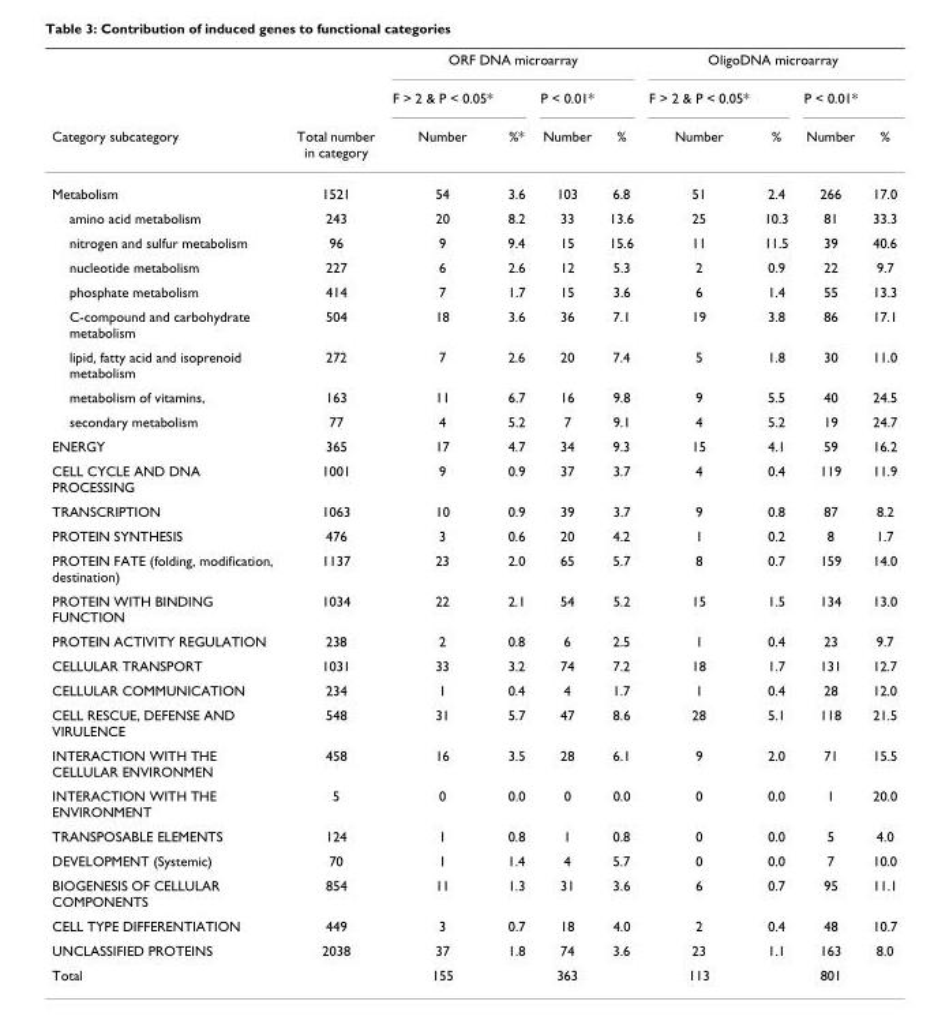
<table><thead><tr><td rowspan="3">Category subcategory</td><td rowspan="3">Total number in category</td><td colspan="4">ORF DNA microarray</td><td colspan="4">OligoDNA microarray</td></tr><tr><td rowspan="2">F &gt; 2 &amp; P &lt; 0.05* Number</td><td rowspan="2">%*</td><td rowspan="2">P &lt; 0.01* Number</td><td rowspan="2">%</td><td rowspan="2">F &gt; 2 &amp; P &lt; 0.05* Number</td><td rowspan="2">%</td><td rowspan="2">P &lt; 0.01* Number</td><td rowspan="2">%</td></tr><tr></tr></thead><tbody><tr><td>Metabolism</td><td>1521</td><td>54</td><td>3.6</td><td>103</td><td>6.8</td><td>51</td><td>2.4</td><td>266</td><td>17.0</td></tr><tr><td>amino acid metabolism</td><td>243</td><td>20</td><td>8.2</td><td>33</td><td>13.6</td><td>25</td><td>10.3</td><td>81</td><td>33.3</td></tr><tr><td>nitrogen and sulfur metabolism</td><td>96</td><td>9</td><td>9.4</td><td>15</td><td>15.6</td><td>11</td><td>11.5</td><td>39</td><td>40.6</td></tr><tr><td>nucleotide metabolism</td><td>227</td><td>6</td><td>2.6</td><td>12</td><td>5.3</td><td>2</td><td>0.9</td><td>22</td><td>9.7</td></tr><tr><td>phosphate metabolism</td><td>414</td><td>7</td><td>1.7</td><td>15</td><td>3.6</td><td>6</td><td>1.4</td><td>55</td><td>13.3</td></tr><tr><td>C-compound and carbohydrate metabolism</td><td>504</td><td>18</td><td>3.6</td><td>36</td><td>7.1</td><td>19</td><td>3.8</td><td>86</td><td>17.1</td></tr><tr><td>lipid, fatty acid and isoprenoid metabolism</td><td>272</td><td>7</td><td>2.6</td><td>20</td><td>7.4</td><td>5</td><td>1.8</td><td>30</td><td>11.0</td></tr><tr><td>metabolism of vitamins,</td><td>163</td><td>11</td><td>6.7</td><td>16</td><td>9.8</td><td>9</td><td>5.5</td><td>40</td><td>24.5</td></tr><tr><td>secondary metabolism</td><td>77</td><td>4</td><td>5.2</td><td>7</td><td>9.1</td><td>4</td><td>5.2</td><td>19</td><td>24.7</td></tr><tr><td>ENERGY</td><td>365</td><td>17</td><td>4.7</td><td>34</td><td>9.3</td><td>15</td><td>4.1</td><td>59</td><td>16.2</td></tr><tr><td>CELL CYCLE AND DNA PROCESSING</td><td>1001</td><td>9</td><td>0.9</td><td>37</td><td>3.7</td><td>4</td><td>0.4</td><td>119</td><td>11.9</td></tr><tr><td>TRANSCRIPTION</td><td>1063</td><td>10</td><td>0.9</td><td>39</td><td>3.7</td><td>9</td><td>0.8</td><td>87</td><td>8.2</td></tr><tr><td>PROTEIN SYNTHESIS</td><td>476</td><td>3</td><td>0.6</td><td>20</td><td>4.2</td><td>1</td><td>0.2</td><td>8</td><td>1.7</td></tr><tr><td>PROTEIN FATE (folding, modification, destination)</td><td>1137</td><td>23</td><td>2.0</td><td>65</td><td>5.7</td><td>8</td><td>0.7</td><td>159</td><td>14.0</td></tr><tr><td>PROTEIN WITH BINDING FUNCTION</td><td>1034</td><td>22</td><td>2.1</td><td>54</td><td>5.2</td><td>15</td><td>1.5</td><td>134</td><td>13.0</td></tr><tr><td>PROTEIN ACTIVITY REGULATION</td><td>238</td><td>2</td><td>0.8</td><td>6</td><td>2.5</td><td>1</td><td>0.4</td><td>23</td><td>9.7</td></tr><tr><td>CELLULAR TRANSPORT</td><td>1031</td><td>33</td><td>3.2</td><td>74</td><td>7.2</td><td>18</td><td>1.7</td><td>131</td><td>12.7</td></tr><tr><td>CELLULAR COMMUNICATION</td><td>234</td><td>1</td><td>0.4</td><td>4</td><td>1.7</td><td>1</td><td>0.4</td><td>28</td><td>12.0</td></tr><tr><td>CELL RESCUE, DEFENSE AND VIRULENCE</td><td>548</td><td>31</td><td>5.7</td><td>47</td><td>8.6</td><td>28</td><td>5.1</td><td>118</td><td>21.5</td></tr><tr><td>INTERACTION WITH THE CELLULAR ENVIRONMEN</td><td>458</td><td>16</td><td>3.5</td><td>28</td><td>6.1</td><td>9</td><td>2.0</td><td>71</td><td>15.5</td></tr><tr><td>INTERACTION WITH THE ENVIRONMENT</td><td>5</td><td>0</td><td>0.0</td><td>0</td><td>0.0</td><td>0</td><td>0.0</td><td>1</td><td>20.0</td></tr><tr><td>TRANSPOSABLE ELEMENTS</td><td>124</td><td>1</td><td>0.8</td><td>1</td><td>0.8</td><td>0</td><td>0.0</td><td>5</td><td>4.0</td></tr><tr><td>DEVELOPMENT (Systemic)</td><td>70</td><td>1</td><td>1.4</td><td>4</td><td>5.7</td><td>0</td><td>0.0</td><td>7</td><td>10.0</td></tr><tr><td>BIOGENESIS OF CELLULAR COMPONENTS</td><td>854</td><td>11</td><td>1.3</td><td>31</td><td>3.6</td><td>6</td><td>0.7</td><td>95</td><td>11.1</td></tr><tr><td>CELL TYPE DIFFERENTIATION</td><td>449</td><td>3</td><td>0.7</td><td>18</td><td>4.0</td><td>2</td><td>0.4</td><td>48</td><td>10.7</td></tr><tr><td>UNCLASSIFIED PROTEINS</td><td>2038</td><td>37</td><td>1.8</td><td>74</td><td>3.6</td><td>23</td><td>1.1</td><td>163</td><td>8.0</td></tr><tr><td>Total</td><td></td><td>155</td><td></td><td>363</td><td></td><td>113</td><td></td><td>801</td><td></td></tr></tbody></table>